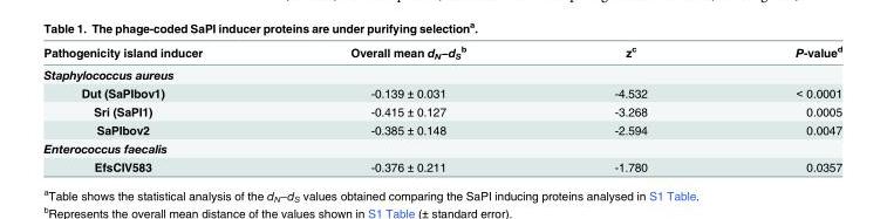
<table><thead><tr><td>Pathogenicity island inducer</td><td>Overall mean d<sub>N</sub>−d<sub>S</sub> <sup>b</sup></td><td>z<sup>c</sup></td><td>P-value<sup>d</sup></td></tr></thead><tbody><tr><td colspan="4">Staphylococcus aureus</td></tr><tr><td>Dut (SaPIbov1)</td><td>-0.139 ± 0.031</td><td>-4.532</td><td>&lt; 0.0001</td></tr><tr><td>Sri (SaPI1)</td><td>-0.415 ± 0.127</td><td>-3.268</td><td>0.0005</td></tr><tr><td>SaPIbov2</td><td>-0.385 ± 0.148</td><td>-2.594</td><td>0.0047</td></tr><tr><td colspan="4">Enterococcus faecalis</td></tr><tr><td>EfsCIV583</td><td>-0.376 ± 0.211</td><td>-1.780</td><td>0.0357</td></tr></tbody></table>